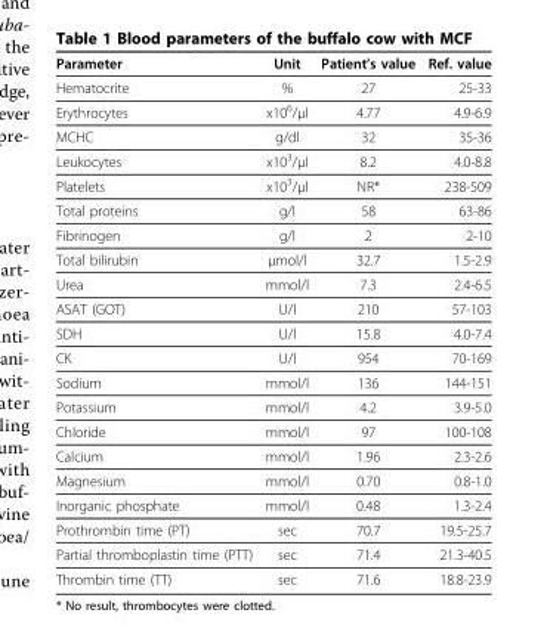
<table><thead><tr><td>Parameter</td><td>Unit</td><td>Patient’s value</td><td>Ref. value</td></tr></thead><tbody><tr><td>Hematocrite</td><td>%</td><td>27</td><td>25-33</td></tr><tr><td>Erythrocytes</td><td>x10<sup>6</sup>/μl</td><td>4.77</td><td>4.9-6.9</td></tr><tr><td>MCHC</td><td>g/dl</td><td>32</td><td>35-36</td></tr><tr><td>Leukocytes</td><td>x10<sup>3</sup>/μl</td><td>8.2</td><td>4.0-8.8</td></tr><tr><td>Platelets</td><td>x10<sup>3</sup>/μl</td><td>NR*</td><td>238-509</td></tr><tr><td>Total proteins</td><td>g/l</td><td>58</td><td>63-86</td></tr><tr><td>Fibrinogen</td><td>g/l</td><td>2</td><td>2-10</td></tr><tr><td>Total bilirubin</td><td>μmol/l</td><td>32.7</td><td>1.5-2.9</td></tr><tr><td>Urea</td><td>mmol/l</td><td>7.3</td><td>2.4-6.5</td></tr><tr><td>ASAT (GOT)</td><td>U/l</td><td>210</td><td>57-103</td></tr><tr><td>SDH</td><td>U/l</td><td>15.8</td><td>4.0-7.4</td></tr><tr><td>CK</td><td>U/l</td><td>954</td><td>70-169</td></tr><tr><td>Sodium</td><td>mmol/l</td><td>136</td><td>144-151</td></tr><tr><td>Potassium</td><td>mmol/l</td><td>4.2</td><td>3.9-5.0</td></tr><tr><td>Chloride</td><td>mmol/l</td><td>97</td><td>100-108</td></tr><tr><td>Calcium</td><td>mmol/l</td><td>1.96</td><td>2.3-2.6</td></tr><tr><td>Magnesium</td><td>mmol/l</td><td>0.70</td><td>0.8-1.0</td></tr><tr><td>Inorganic phosphate</td><td>mmol/l</td><td>0.48</td><td>1.3-2.4</td></tr><tr><td>Prothrombin time (PT)</td><td>sec</td><td>70.7</td><td>19.5-25.7</td></tr><tr><td>Partial thromboplastin time (PTT)</td><td>sec</td><td>71.4</td><td>21.3-40.5</td></tr><tr><td>Thrombin time (TT)</td><td>sec</td><td>71.6</td><td>18.8-23.9</td></tr></tbody></table>